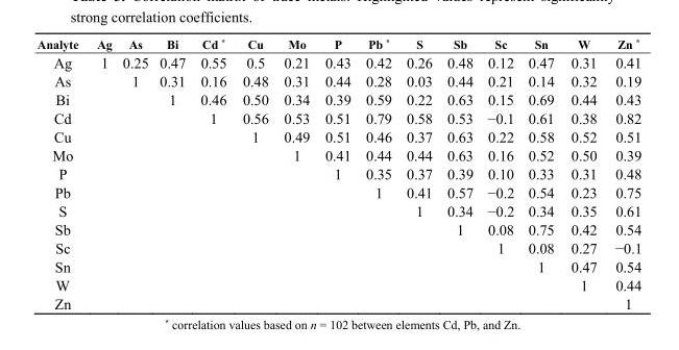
<table><thead><tr><td>Analyte</td><td>Ag</td><td>As</td><td>Bi</td><td>Cd *</td><td>Cu</td><td>Mo</td><td>P</td><td>Pb *</td><td>S</td><td>Sb</td><td>Sc</td><td>Sn</td><td>W</td><td>Zn *</td></tr></thead><tbody><tr><td>Ag</td><td>1</td><td>0.25</td><td>0.47</td><td>0.55</td><td>0.5</td><td>0.21</td><td>0.43</td><td>0.42</td><td>0.26</td><td>0.48</td><td>0.12</td><td>0.47</td><td>0.31</td><td>0.41</td></tr><tr><td>As</td><td></td><td>1</td><td>0.31</td><td>0.16</td><td>0.48</td><td>0.31</td><td>0.44</td><td>0.28</td><td>0.03</td><td>0.44</td><td>0.21</td><td>0.14</td><td>0.32</td><td>0.19</td></tr><tr><td>Bi</td><td></td><td></td><td>1</td><td>0.46</td><td>0.50</td><td>0.34</td><td>0.39</td><td>0.59</td><td>0.22</td><td>0.63</td><td>0.15</td><td>0.69</td><td>0.44</td><td>0.43</td></tr><tr><td>Cd</td><td></td><td></td><td></td><td>1</td><td>0.56</td><td>0.53</td><td>0.51</td><td>0.79</td><td>0.58</td><td>0.53</td><td>−0.1</td><td>0.61</td><td>0.38</td><td>0.82</td></tr><tr><td>Cu</td><td></td><td></td><td></td><td></td><td>1</td><td>0.49</td><td>0.51</td><td>0.46</td><td>0.37</td><td>0.63</td><td>0.22</td><td>0.58</td><td>0.52</td><td>0.51</td></tr><tr><td>Mo</td><td></td><td></td><td></td><td></td><td></td><td>1</td><td>0.41</td><td>0.44</td><td>0.44</td><td>0.63</td><td>0.16</td><td>0.52</td><td>0.50</td><td>0.39</td></tr><tr><td>P</td><td></td><td></td><td></td><td></td><td></td><td></td><td>1</td><td>0.35</td><td>0.37</td><td>0.39</td><td>0.10</td><td>0.33</td><td>0.31</td><td>0.48</td></tr><tr><td>Pb</td><td></td><td></td><td></td><td></td><td></td><td></td><td></td><td>1</td><td>0.41</td><td>0.57</td><td>−0.2</td><td>0.54</td><td>0.23</td><td>0.75</td></tr><tr><td>S</td><td></td><td></td><td></td><td></td><td></td><td></td><td></td><td></td><td>1</td><td>0.34</td><td>−0.2</td><td>0.34</td><td>0.35</td><td>0.61</td></tr><tr><td>Sb</td><td></td><td></td><td></td><td></td><td></td><td></td><td></td><td></td><td></td><td>1</td><td>0.08</td><td>0.75</td><td>0.42</td><td>0.54</td></tr><tr><td>Sc</td><td></td><td></td><td></td><td></td><td></td><td></td><td></td><td></td><td></td><td></td><td>1</td><td>0.08</td><td>0.27</td><td>−0.1</td></tr><tr><td>Sn</td><td></td><td></td><td></td><td></td><td></td><td></td><td></td><td></td><td></td><td></td><td></td><td>1</td><td>0.47</td><td>0.54</td></tr><tr><td>W</td><td></td><td></td><td></td><td></td><td></td><td></td><td></td><td></td><td></td><td></td><td></td><td></td><td>1</td><td>0.44</td></tr><tr><td>Zn</td><td></td><td></td><td></td><td></td><td></td><td></td><td></td><td></td><td></td><td></td><td></td><td></td><td></td><td>1</td></tr></tbody></table>